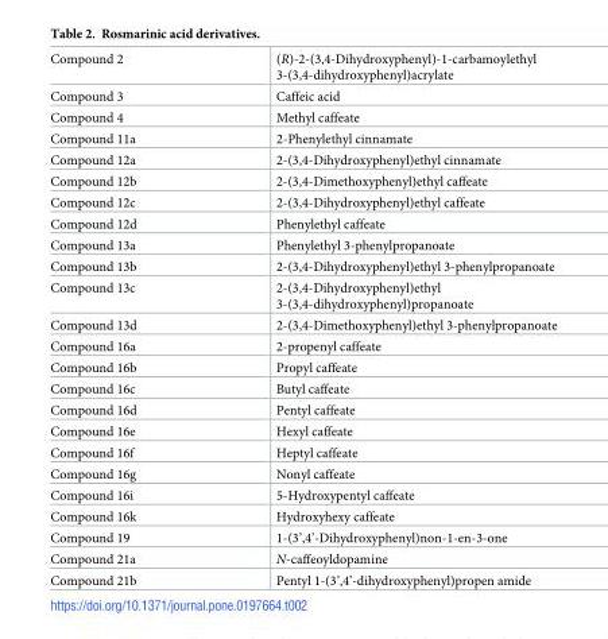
<table><tbody><tr><td>Compound 2</td><td>(R)-2-(3,4-Dihydroxyphenyl)-1-carbamoylethyl 3-(3,4-dihydroxyphenyl)acrylate</td></tr><tr><td>Compound 3</td><td>Caffeic acid</td></tr><tr><td>Compound 4</td><td>Methyl caffeate</td></tr><tr><td>Compound 11a</td><td>2-Phenylethyl cinnamate</td></tr><tr><td>Compound 12a</td><td>2-(3,4-Dihydroxyphenyl)ethyl cinnamate</td></tr><tr><td>Compound 12b</td><td>2-(3,4-Dimethoxyphenyl)ethyl caffeate</td></tr><tr><td>Compound 12c</td><td>2-(3,4-Dihydroxyphenyl)ethyl caffeate</td></tr><tr><td>Compound 12d</td><td>Phenylethyl caffeate</td></tr><tr><td>Compound 13a</td><td>Phenylethyl 3-phenylpropanoate</td></tr><tr><td>Compound 13b</td><td>2-(3,4-Dihydroxyphenyl)ethyl 3-phenylpropanoate</td></tr><tr><td>Compound 13c</td><td>2-(3,4-Dihydroxyphenyl)ethyl 3-(3,4-dihydroxyphenyl)propanoate</td></tr><tr><td>Compound 13d</td><td>2-(3,4-Dimethoxyphenyl)ethyl 3-phenylpropanoate</td></tr><tr><td>Compound 16a</td><td>2-propenyl caffeate</td></tr><tr><td>Compound 16b</td><td>Propyl caffeate</td></tr><tr><td>Compound 16c</td><td>Butyl caffeate</td></tr><tr><td>Compound 16d</td><td>Pentyl caffeate</td></tr><tr><td>Compound 16e</td><td>Hexyl caffeate</td></tr><tr><td>Compound 16f</td><td>Heptyl caffeate</td></tr><tr><td>Compound 16g</td><td>Nonyl caffeate</td></tr><tr><td>Compound 16i</td><td>5-Hydroxypentyl caffeate</td></tr><tr><td>Compound 16k</td><td>Hydroxyhexy caffeate</td></tr><tr><td>Compound 19</td><td>1-(3’,4’-Dihydroxyphenyl)non-1-en-3-one</td></tr><tr><td>Compound 21a</td><td>N-caffeoyldopamine</td></tr><tr><td>Compound 21b</td><td>Pentyl 1-(3’,4’-dihydroxyphenyl)propen amide</td></tr></tbody></table>